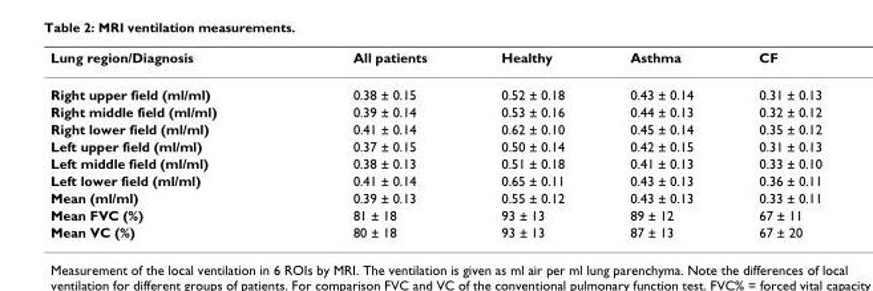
<table><thead><tr><td>Lung region/Diagnosis</td><td>All patients</td><td>Healthy</td><td>Asthma</td><td>CF</td></tr></thead><tbody><tr><td>Right upper field (ml/ml)</td><td>0.38 ± 0.15</td><td>0.52 ± 0.18</td><td>0.43 ± 0.14</td><td>0.31 ± 0.13</td></tr><tr><td>Right middle field (ml/ml)</td><td>0.39 ± 0.14</td><td>0.53 ± 0.16</td><td>0.44 ± 0.13</td><td>0.32 ± 0.12</td></tr><tr><td>Right lower field (ml/ml)</td><td>0.41 ± 0.14</td><td>0.62 ± 0.10</td><td>0.45 ± 0.14</td><td>0.35 ± 0.12</td></tr><tr><td>Left upper field (ml/ml)</td><td>0.37 ± 0.15</td><td>0.50 ± 0.14</td><td>0.42 ± 0.15</td><td>0.31 ± 0.13</td></tr><tr><td>Left middle field (ml/ml)</td><td>0.38 ± 0.13</td><td>0.51 ± 0.18</td><td>0.41 ± 0.13</td><td>0.33 ± 0.10</td></tr><tr><td>Left lower field (ml/ml)</td><td>0.41 ± 0.14</td><td>0.65 ± 0.11</td><td>0.43 ± 0.13</td><td>0.36 ± 0.11</td></tr><tr><td>Mean (ml/ml)</td><td>0.39 ± 0.13</td><td>0.55 ± 0.12</td><td>0.43 ± 0.13</td><td>0.33 ± 0.11</td></tr><tr><td>Mean FVC (%)</td><td>81 ± 18</td><td>93 ± 13</td><td>89 ± 12</td><td>67 ± 11</td></tr><tr><td>Mean VC (%)</td><td>80 ± 18</td><td>93 ± 13</td><td>87 ± 13</td><td>67 ± 20</td></tr></tbody></table>